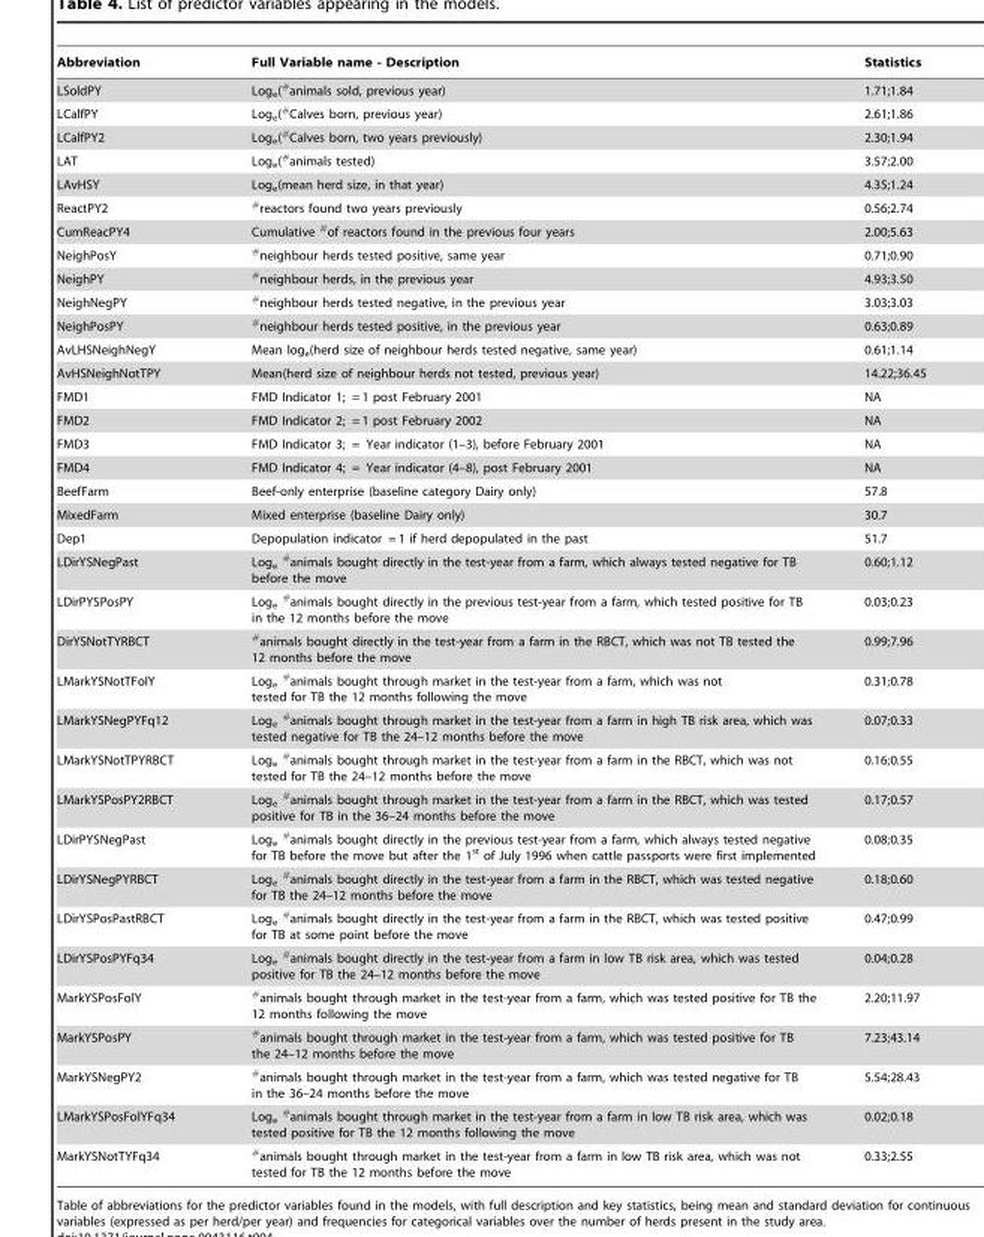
<table><thead><tr><td>Abbreviation</td><td>Full Variable name - Description</td><td>Statistics</td></tr></thead><tbody><tr><td>LSoldPY</td><td>Log<sub>e</sub>(<sup>#</sup>animals sold, previous year)</td><td>1.71;1.84</td></tr><tr><td>LCalfPY</td><td>Log<sub>e</sub>(<sup>#</sup>Calves born, previous year)</td><td>2.61;1.86</td></tr><tr><td>LCalfPY2</td><td>Log<sub>e</sub>(<sup>#</sup>Calves born, two years previously)</td><td>2.30;1.94</td></tr><tr><td>LAT</td><td>Log<sub>e</sub>(<sup>#</sup>animals tested)</td><td>3.57;2.00</td></tr><tr><td>LAvHSY</td><td>Log<sub>e</sub>(mean herd size, in that year)</td><td>4.35;1.24</td></tr><tr><td>ReactPY2</td><td><sup>#</sup>reactors found two years previously</td><td>0.56;2.74</td></tr><tr><td>CumReacPY4</td><td>Cumulative <sup>#</sup>of reactors found in the previous four years</td><td>2.00;5.63</td></tr><tr><td>NeighPosY</td><td><sup>#</sup>neighbour herds tested positive, same year</td><td>0.71;0.90</td></tr><tr><td>NeighPY</td><td><sup>#</sup>neighbour herds, in the previous year</td><td>4.93;3.50</td></tr><tr><td>NeighNegPY</td><td><sup>#</sup>neighbour herds tested negative, in the previous year</td><td>3.03;3.03</td></tr><tr><td>NeighPosPY</td><td><sup>#</sup>neighbour herds tested positive, in the previous year</td><td>0.63;0.89</td></tr><tr><td>AvLHSNeighNegY</td><td>Mean log<sub>e</sub>(herd size of neighbour herds tested negative, same year)</td><td>0.61;1.14</td></tr><tr><td>AvHSNeighNotTPY</td><td>Mean(herd size of neighbour herds not tested, previous year)</td><td>14.22;36.45</td></tr><tr><td>FMD1</td><td>FMD Indicator 1; = 1 post February 2001</td><td>NA</td></tr><tr><td>FMD2</td><td>FMD Indicator 2; = 1 post February 2002</td><td>NA</td></tr><tr><td>FMD3</td><td>FMD Indicator 3; = Year indicator (1–3), before February 2001</td><td>NA</td></tr><tr><td>FMD4</td><td>FMD Indicator 4; = Year indicator (4–8), post February 2001</td><td>NA</td></tr><tr><td>BeefFarm</td><td>Beef-only enterprise (baseline category Dairy only)</td><td>57.8</td></tr><tr><td>MixedFarm</td><td>Mixed enterprise (baseline Dairy only)</td><td>30.7</td></tr><tr><td>Dep1</td><td>Depopulation indicator = 1 if herd depopulated in the past</td><td>51.7</td></tr><tr><td>LDirYSNegPast</td><td>Log<sub>e</sub> <sup>#</sup>animals bought directly in the test-year from a farm, which always tested negative for TB before the move</td><td>0.60;1.12</td></tr><tr><td>LDirPYSPosPY</td><td>Log<sub>e</sub> <sup>#</sup>animals bought directly in the previous test-year from a farm, which tested positive for TB in the 12 months before the move</td><td>0.03;0.23</td></tr><tr><td>DirYSNotTYRBCT</td><td><sup>#</sup>animals bought directly in the test-year from a farm in the RBCT, which was not TB tested the 12 months before the move</td><td>0.99;7.96</td></tr><tr><td>LMarkYSNotTFolY</td><td>Log<sub>e</sub> <sup>#</sup>animals bought through market in the test-year from a farm, which was not tested for TB the 12 months following the move</td><td>0.31;0.78</td></tr><tr><td>LMarkYSNegPYFq12</td><td>Log<sub>e</sub> <sup>#</sup>animals bought through market in the test-year from a farm in high TB risk area, which was tested negative for TB the 24–12 months before the move</td><td>0.07;0.33</td></tr><tr><td>LMarkYSNotTPYRBCT</td><td>Log<sub>e</sub> <sup>#</sup>animals bought through market in the test-year from a farm in the RBCT, which was not tested for TB the 24–12 months before the move</td><td>0.16;0.55</td></tr><tr><td>LMarkYSPosPY2RBCT</td><td>Log<sub>e</sub> <sup>#</sup>animals bought through market in the test-year from a farm in the RBCT, which was tested positive for TB in the 36–24 months before the move</td><td>0.17;0.57</td></tr><tr><td>LDirPYSNegPast</td><td>Log<sub>e</sub> <sup>#</sup>animals bought directly in the previous test-year from a farm, which always tested negative for TB before the move but after the 1<sup>st</sup> of July 1996 when cattle passports were first implemented</td><td>0.08;0.35</td></tr><tr><td>LDirYSNegPYRBCT</td><td>Log<sub>e</sub> <sup>#</sup>animals bought directly in the test-year from a farm in the RBCT, which was tested negative for TB the 24–12 months before the move</td><td>0.18;0.60</td></tr><tr><td>LDirYSPosPastRBCT</td><td>Log<sub>e</sub> <sup>#</sup>animals bought directly in the test-year from a farm in the RBCT, which was tested positive for TB at some point before the move</td><td>0.47;0.99</td></tr><tr><td>LDirYSPosPYFq34</td><td>Log<sub>e</sub> <sup>#</sup>animals bought directly in the test-year from a farm in low TB risk area, which was tested positive for TB the 24–12 months before the move</td><td>0.04;0.28</td></tr><tr><td>MarkYSPosFolY</td><td><sup>#</sup>animals bought through market in the test-year from a farm, which was tested positive for TB the 12 months following the move</td><td>2.20;11.97</td></tr><tr><td>MarkYSPosPY</td><td><sup>#</sup>animals bought through market in the test-year from a farm, which was tested positive for TB the 24–12 months before the move</td><td>7.23;43.14</td></tr><tr><td>MarkYSNegPY2</td><td><sup>#</sup>animals bought through market in the test-year from a farm, which was tested negative for TB in the 36–24 months before the move</td><td>5.54;28.43</td></tr><tr><td>LMarkYSPosFolYFq34</td><td>Log<sub>e</sub> <sup>#</sup>animals bought through market in the test-year from a farm in low TB risk area, which was tested positive for TB the 12 months following the move</td><td>0.02;0.18</td></tr><tr><td>MarkYSNotTYFq34</td><td><sup>#</sup>animals bought through market in the test-year from a farm in low TB risk area, which was not tested for TB the 12 months before the move</td><td>0.33;2.55</td></tr></tbody></table>